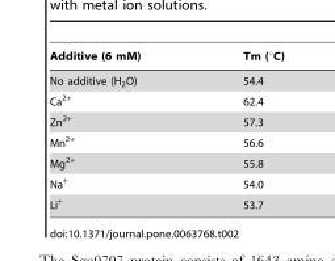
<table><thead><tr><td>Additive (6 mM)</td><td>Tm (°C)</td></tr></thead><tbody><tr><td>No additive (H<sub>2</sub>O)</td><td>54.4</td></tr><tr><td>Ca<sup>2+</sup></td><td>62.4</td></tr><tr><td>Zn<sup>2+</sup></td><td>57.3</td></tr><tr><td>Mn<sup>2+</sup></td><td>56.6</td></tr><tr><td>Mg<sup>2+</sup></td><td>55.8</td></tr><tr><td>Na<sup>+</sup></td><td>54.0</td></tr><tr><td>Li<sup>+</sup></td><td>53.7</td></tr></tbody></table>